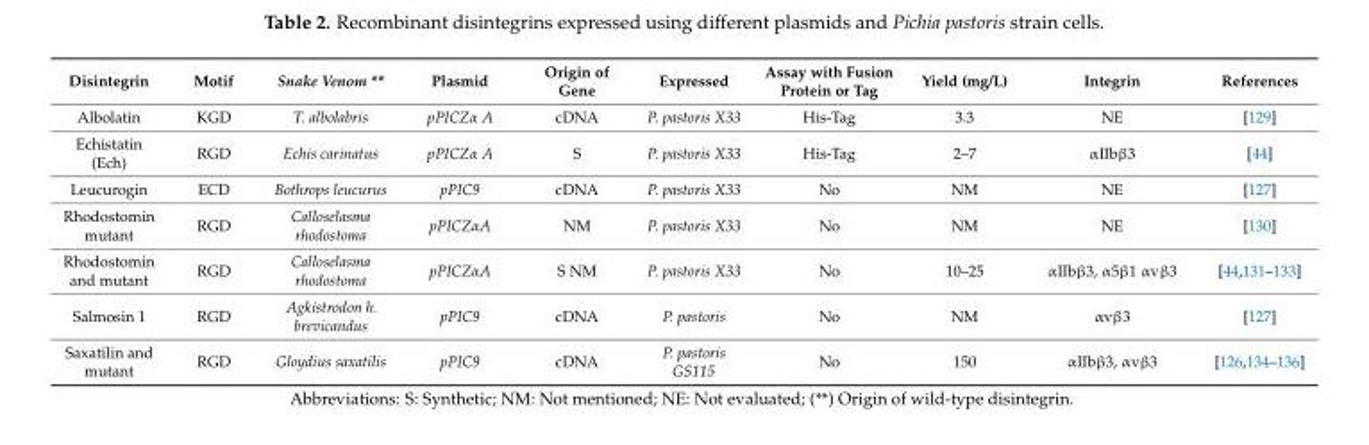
<table><thead><tr><td>Disintegrin</td><td>Motif</td><td>Snake Venom **</td><td>Plasmid</td><td>Origin of Gene</td><td>Expressed</td><td>Assay with Fusion Protein or Tag</td><td>Yield (mg/L)</td><td>Integrin</td><td>References</td></tr></thead><tbody><tr><td>Albolatin</td><td>KGD</td><td>T. albolabris</td><td>pPICZα A</td><td>cDNA</td><td>P. pastoris X33</td><td>His-Tag</td><td>3.3</td><td>NE</td><td>[129]</td></tr><tr><td>Echistatin (Ech)</td><td>RGD</td><td>Echis carinatus</td><td>pPICZα A</td><td>S</td><td>P. pastoris X33</td><td>His-Tag</td><td>2–7</td><td>αIIbβ3</td><td>[44]</td></tr><tr><td>Leucurogin</td><td>ECD</td><td>Bothrops leucurus</td><td>pPIC9</td><td>cDNA</td><td>P. pastoris X33</td><td>No</td><td>NM</td><td>NE</td><td>[127]</td></tr><tr><td>Rhodostomin mutant</td><td>RGD</td><td>Calloselasma rhodostoma</td><td>pPICZαA</td><td>NM</td><td>P. pastoris X33</td><td>No</td><td>NM</td><td>NE</td><td>[130]</td></tr><tr><td>Rhodostomin and mutant</td><td>RGD</td><td>Calloselasma rhodostoma</td><td>pPICZαA</td><td>S NM</td><td>P. pastoris X33</td><td>No</td><td>10–25</td><td>αIIbβ3, α5β1 αvβ3</td><td>[44,131–133]</td></tr><tr><td>Salmosin 1</td><td>RGD</td><td>Agkistrodon h. brevicandus</td><td>pPIC9</td><td>cDNA</td><td>P. pastoris</td><td>No</td><td>NM</td><td>αvβ3</td><td>[127]</td></tr><tr><td>Saxatilin and mutant</td><td>RGD</td><td>Gloydius saxatilis</td><td>pPIC9</td><td>cDNA</td><td>P. pastoris GS115</td><td>No</td><td>150</td><td>αIIbβ3, αvβ3</td><td>[126,134–136]</td></tr></tbody></table>